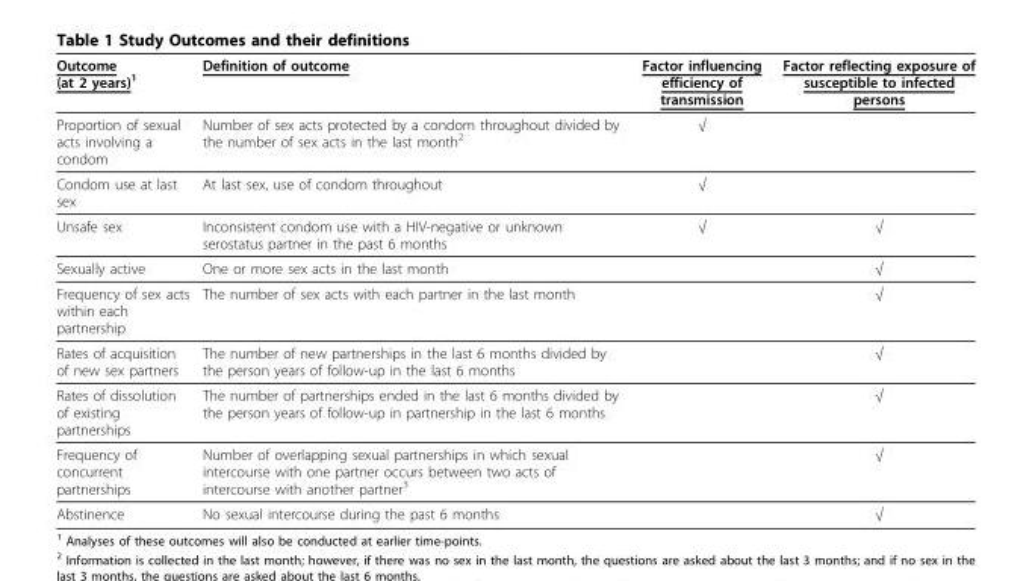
<table><thead><tr><td>Outcome (at 2 years)<sup>1</sup></td><td>Definition of outcome</td><td>Factor influencing efficiency of transmission</td><td>Factor reflecting exposure of susceptible to infected persons</td></tr></thead><tbody><tr><td>Proportion of sexual acts involving a condom</td><td>Number of sex acts protected by a condom throughout divided by the number of sex acts in the last month<sup>2</sup></td><td>√</td><td></td></tr><tr><td>Condom use at last sex</td><td>At last sex, use of condom throughout</td><td>√</td><td></td></tr><tr><td>Unsafe sex</td><td>Inconsistent condom use with a HIV-negative or unknown serostatus partner in the past 6 months</td><td>√</td><td>√</td></tr><tr><td>Sexually active</td><td>One or more sex acts in the last month</td><td></td><td>√</td></tr><tr><td>Frequency of sex acts within each partnership</td><td>The number of sex acts with each partner in the last month</td><td></td><td>√</td></tr><tr><td>Rates of acquisition of new sex partners</td><td>The number of new partnerships in the last 6 months divided by the person years of follow-up in the last 6 months</td><td></td><td>√</td></tr><tr><td>Rates of dissolution of existing partnerships</td><td>The number of partnerships ended in the last 6 months divided by the person years of follow-up in partnership in the last 6 months</td><td></td><td>√</td></tr><tr><td>Frequency of concurrent partnerships</td><td>Number of overlapping sexual partnerships in which sexual intercourse with one partner occurs between two acts of intercourse with another partner<sup>3</sup></td><td></td><td>√</td></tr><tr><td>Abstinence</td><td>No sexual intercourse during the past 6 months</td><td></td><td>√</td></tr></tbody></table>